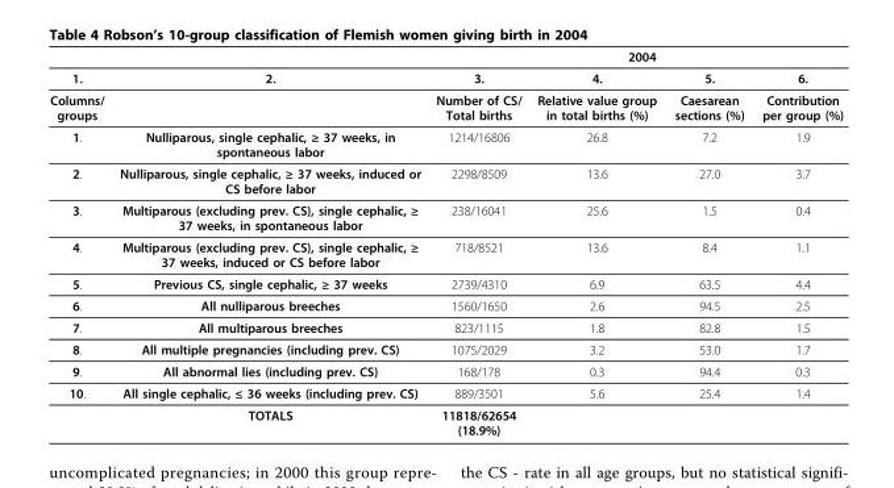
<table><thead><tr><td rowspan="2">1.</td><td rowspan="2">2.</td><td colspan="4">2004</td></tr><tr><td>3.</td><td>4.</td><td>5.</td><td>6.</td></tr></thead><tbody><tr><td>Columns/ groups</td><td></td><td>Number of CS/ Total births</td><td>Relative value group in total births (%)</td><td>Caesarean sections (%)</td><td>Contribution per group (%)</td></tr><tr><td>1.</td><td>Nulliparous, single cephalic, ≥ 37 weeks, in spontaneous labor</td><td>1214/16806</td><td>26.8</td><td>7.2</td><td>1.9</td></tr><tr><td>2.</td><td>Nulliparous, single cephalic, ≥ 37 weeks, induced or CS before labor</td><td>2298/8509</td><td>13.6</td><td>27.0</td><td>3.7</td></tr><tr><td>3.</td><td>Multiparous (excluding prev. CS), single cephalic, ≥ 37 weeks, in spontaneous labor</td><td>238/16041</td><td>25.6</td><td>1.5</td><td>0.4</td></tr><tr><td>4.</td><td>Multiparous (excluding prev. CS), single cephalic, ≥ 37 weeks, induced or CS before labor</td><td>718/8521</td><td>13.6</td><td>8.4</td><td>1.1</td></tr><tr><td>5.</td><td>Previous CS, single cephalic, ≥ 37 weeks</td><td>2739/4310</td><td>6.9</td><td>63.5</td><td>4.4</td></tr><tr><td>6.</td><td>All nulliparous breeches</td><td>1560/1650</td><td>2.6</td><td>94.5</td><td>2.5</td></tr><tr><td>7.</td><td>All multiparous breeches</td><td>823/1115</td><td>1.8</td><td>82.8</td><td>1.5</td></tr><tr><td>8.</td><td>All multiple pregnancies (including prev. CS)</td><td>1075/2029</td><td>3.2</td><td>53.0</td><td>1.7</td></tr><tr><td>9.</td><td>All abnormal lies (including prev. CS)</td><td>168/178</td><td>0.3</td><td>94.4</td><td>0.3</td></tr><tr><td rowspan="2">10.</td><td>All single cephalic, ≤ 36 weeks (including prev. CS)</td><td>889/3501</td><td>5.6</td><td>25.4</td><td>1.4</td></tr><tr><td>TOTALS</td><td>11818/62654 (18.9%)</td><td></td><td></td><td></td></tr></tbody></table>